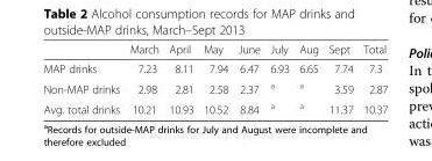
<table><thead><tr><td></td><td>March</td><td>April</td><td>May</td><td>June</td><td>July</td><td>Aug</td><td>Sept</td><td>Total</td></tr></thead><tbody><tr><td>MAP drinks</td><td>7.23</td><td>8.11</td><td>7.94</td><td>6.47</td><td>6.93</td><td>6.65</td><td>7.74</td><td>7.3</td></tr><tr><td>Non-MAP drinks</td><td>2.98</td><td>2.81</td><td>2.58</td><td>2.37</td><td><sup>a</sup></td><td><sup>a</sup></td><td>3.59</td><td>2.87</td></tr><tr><td>Avg. total drinks</td><td>10.21</td><td>10.93</td><td>10.52</td><td>8.84</td><td><sup>a</sup></td><td><sup>a</sup></td><td>11.37</td><td>10.37</td></tr></tbody></table>